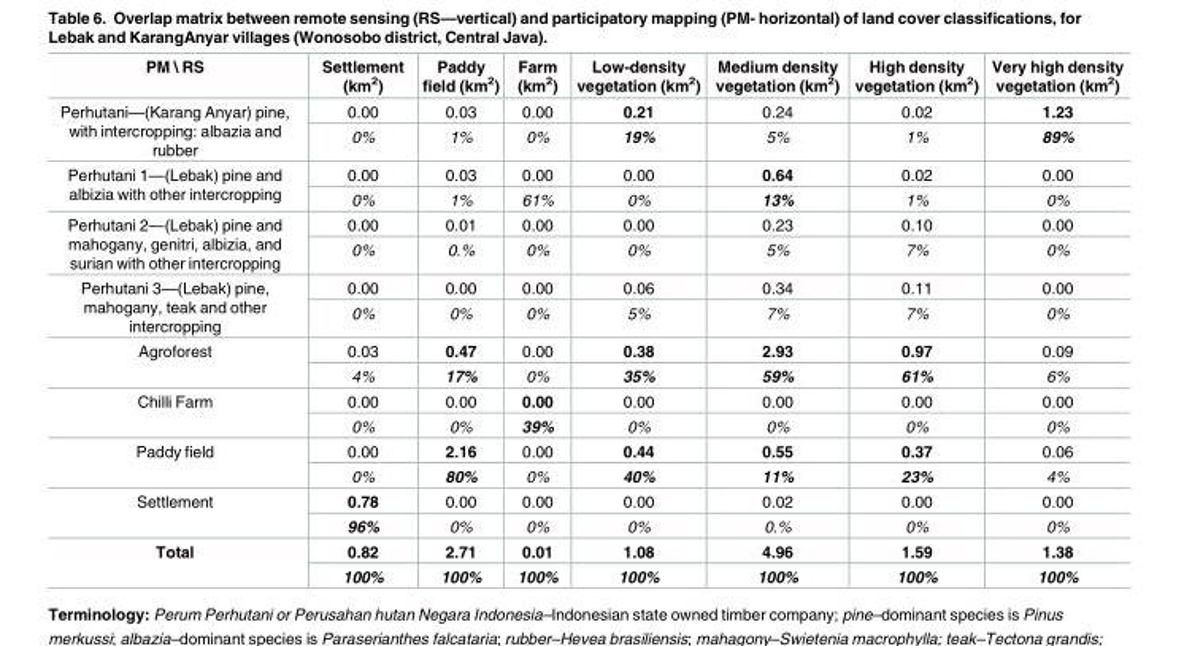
<table><thead><tr><td>PM \ RS</td><td>Settlement (km<sup>2</sup>)</td><td>Paddy field (km<sup>2</sup>)</td><td>Farm (km<sup>2</sup>)</td><td>Low-density vegetation (km<sup>2</sup>)</td><td>Medium density vegetation (km<sup>2</sup>)</td><td>High density vegetation (km<sup>2</sup>)</td><td>Very high density vegetation (km<sup>2</sup>)</td></tr></thead><tbody><tr><td rowspan="2">Perhutani—(Karang Anyar) pine, with intercropping: albazia and rubber</td><td>0.00</td><td>0.03</td><td>0.00</td><td>0.21</td><td>0.24</td><td>0.02</td><td>1.23</td></tr><tr><td>0%</td><td>1%</td><td>0%</td><td>19%</td><td>5%</td><td>1%</td><td>89%</td></tr><tr><td rowspan="2">Perhutani 1—(Lebak) pine and albizia with other intercropping</td><td>0.00</td><td>0.03</td><td>0.00</td><td>0.00</td><td>0.64</td><td>0.02</td><td>0.00</td></tr><tr><td>0%</td><td>1%</td><td>61%</td><td>0%</td><td>13%</td><td>1%</td><td>0%</td></tr><tr><td rowspan="2">Perhutani 2—(Lebak) pine and mahogany, genitri, albizia, and surian with other intercropping</td><td>0.00</td><td>0.01</td><td>0.00</td><td>0.00</td><td>0.23</td><td>0.10</td><td>0.00</td></tr><tr><td>0%</td><td>0.%</td><td>0%</td><td>0%</td><td>5%</td><td>7%</td><td>0%</td></tr><tr><td rowspan="2">Perhutani 3—(Lebak) pine, mahogany, teak and other intercropping</td><td>0.00</td><td>0.00</td><td>0.00</td><td>0.06</td><td>0.34</td><td>0.11</td><td>0.00</td></tr><tr><td>0%</td><td>0%</td><td>0%</td><td>5%</td><td>7%</td><td>7%</td><td>0%</td></tr><tr><td rowspan="2">Agroforest</td><td>0.03</td><td>0.47</td><td>0.00</td><td>0.38</td><td>2.93</td><td>0.97</td><td>0.09</td></tr><tr><td>4%</td><td>17%</td><td>0%</td><td>35%</td><td>59%</td><td>61%</td><td>6%</td></tr><tr><td rowspan="2">Chilli Farm</td><td>0.00</td><td>0.00</td><td>0.00</td><td>0.00</td><td>0.00</td><td>0.00</td><td>0.00</td></tr><tr><td>0%</td><td>0%</td><td>39%</td><td>0%</td><td>0%</td><td>0%</td><td>0%</td></tr><tr><td rowspan="2">Paddy field</td><td>0.00</td><td>2.16</td><td>0.00</td><td>0.44</td><td>0.55</td><td>0.37</td><td>0.06</td></tr><tr><td>0%</td><td>80%</td><td>0%</td><td>40%</td><td>11%</td><td>23%</td><td>4%</td></tr><tr><td rowspan="2">Settlement</td><td>0.78</td><td>0.00</td><td>0.00</td><td>0.00</td><td>0.02</td><td>0.00</td><td>0.00</td></tr><tr><td>96%</td><td>0%</td><td>0%</td><td>0%</td><td>0.%</td><td>0%</td><td>0%</td></tr><tr><td rowspan="2">Total</td><td>0.82</td><td>2.71</td><td>0.01</td><td>1.08</td><td>4.96</td><td>1.59</td><td>1.38</td></tr><tr><td>100%</td><td>100%</td><td>100%</td><td>100%</td><td>100%</td><td>100%</td><td>100%</td></tr></tbody></table>